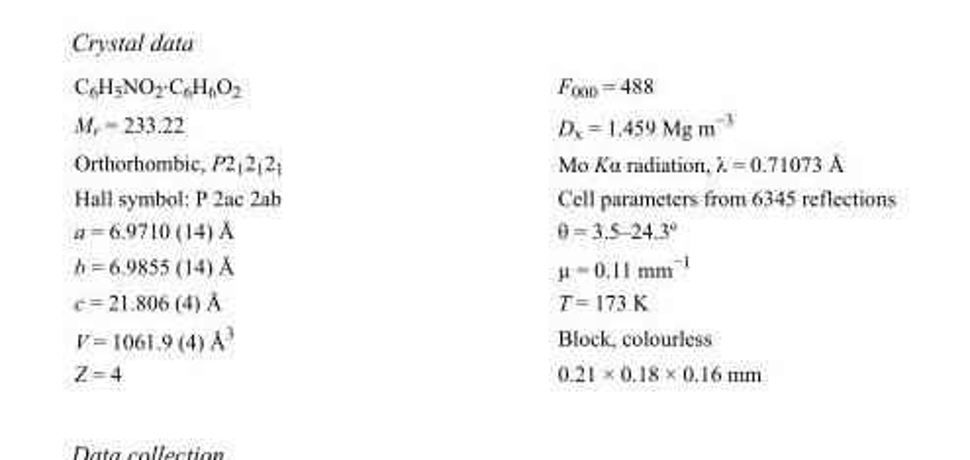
<table><tbody><tr><td>C<sub>6</sub>H<sub>5</sub>NO<sub>2</sub>·C<sub>6</sub>H<sub>6</sub>O<sub>2</sub></td><td>F000 = 488</td></tr><tr><td>M<sub>r</sub> = 233.22</td><td>D<sub>x</sub> = 1.459 Mg m<sup>−3</sup></td></tr><tr><td>Orthorhombic, P2<sub>1</sub>2<sub>1</sub>2<sub>1</sub></td><td>Mo Kα radiation, λ = 0.71073 Å</td></tr><tr><td>Hall symbol: P 2ac 2ab</td><td>Cell parameters from 6345 reflections</td></tr><tr><td>a = 6.9710 (14) Å</td><td>θ = 3.5–24.3º</td></tr><tr><td>b = 6.9855 (14) Å</td><td>µ = 0.11 mm<sup>−1</sup></td></tr><tr><td>c = 21.806 (4) Å</td><td>T = 173 K</td></tr><tr><td>V = 1061.9 (4) Å<sup>3</sup></td><td>Block, colourless</td></tr><tr><td>Z = 4</td><td>0.21 × 0.18 × 0.16 mm</td></tr></tbody></table>